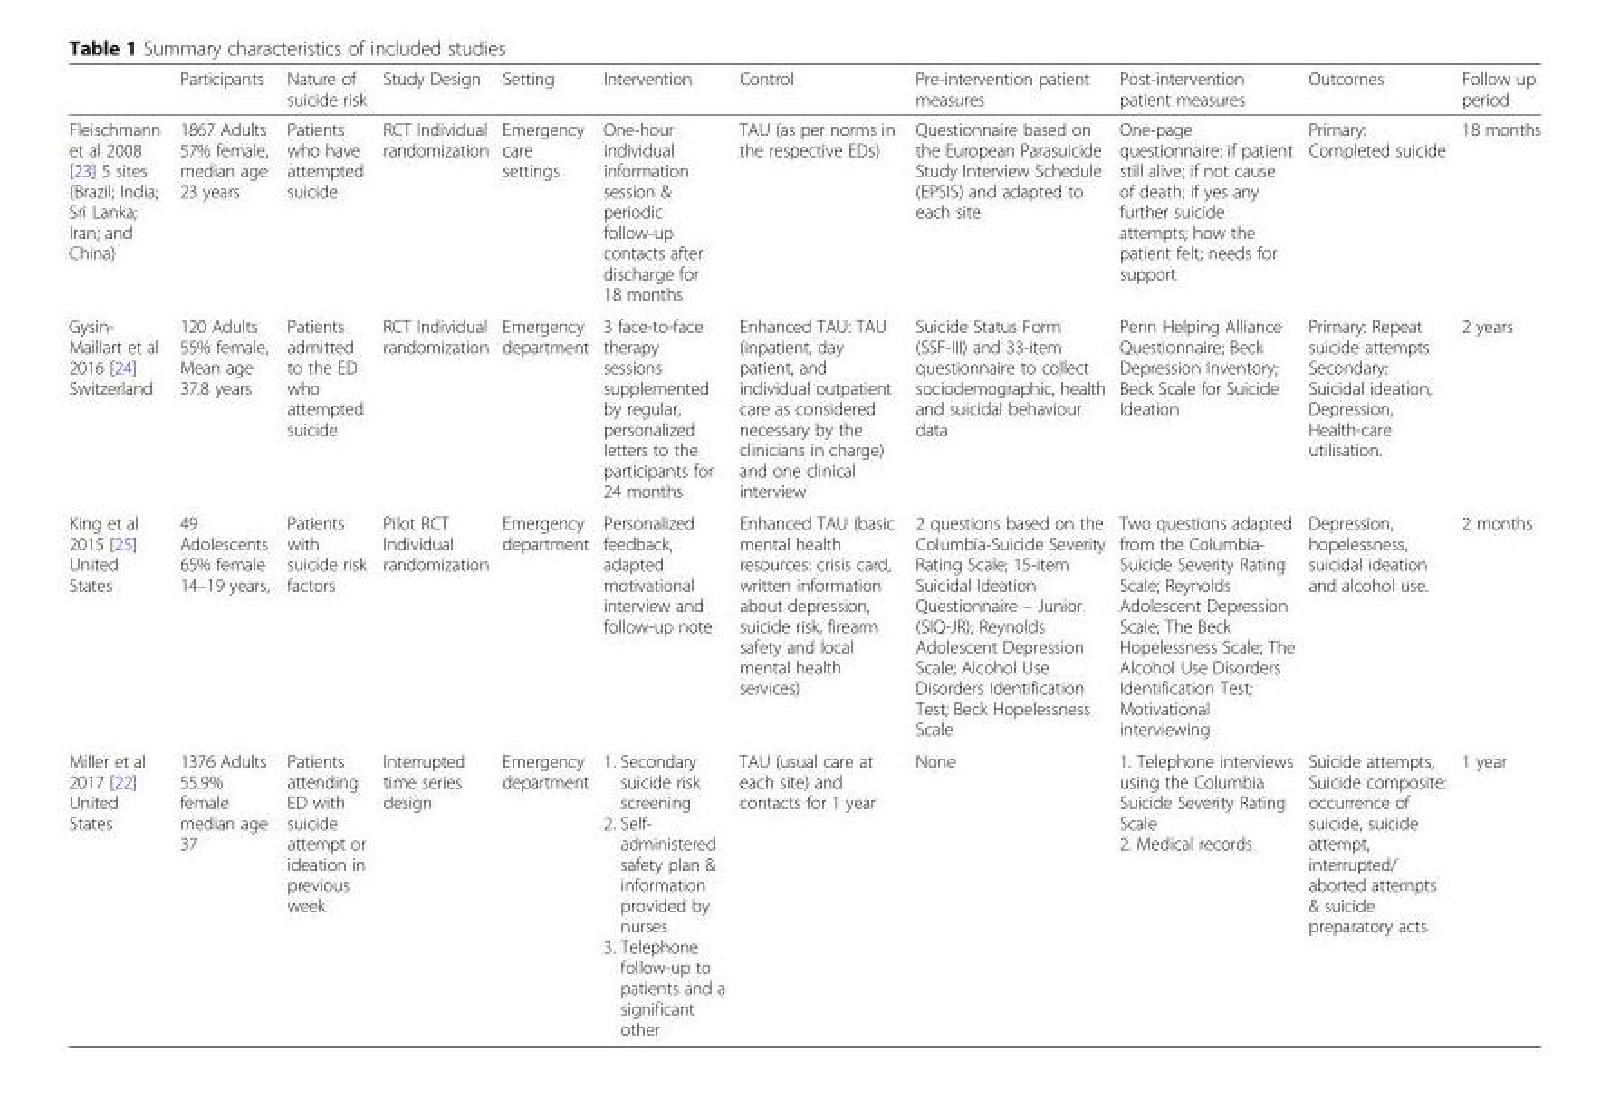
<table><thead><tr><td></td><td>Participants</td><td>Nature of suicide risk</td><td>Study Design</td><td>Setting</td><td>Intervention</td><td>Control</td><td>Pre-intervention patient measures</td><td>Post-intervention patient measures</td><td>Outcomes</td><td>Follow up period</td></tr></thead><tbody><tr><td>Fleischmann et al 2008 [23] 5 sites (Brazil; India; Sri Lanka; Iran; and China)</td><td>1867 Adults 57% female, median age 23 years</td><td>Patients who have attempted suicide</td><td>RCT Individual randomization</td><td>Emergency care settings</td><td>One-hour individual information session &amp; periodic follow-up contacts after discharge for 18 months</td><td>TAU (as per norms in the respective EDs)</td><td>Questionnaire based on the European Parasuicide Study Interview Schedule (EPSIS) and adapted to each site</td><td>One-page questionnaire: if patient still alive; if not cause of death; if yes any further suicide attempts; how the patient felt; needs for support</td><td>Primary: Completed suicide</td><td>18 months</td></tr><tr><td>Gysin- Maillart et al 2016 [24] Switzerland</td><td>120 Adults 55% female, Mean age 37.8 years</td><td>Patients admitted to the ED who attempted suicide</td><td>RCT Individual randomization</td><td>Emergency department</td><td>3 face-to-face therapy sessions supplemented by regular, personalized letters to the participants for 24 months</td><td>Enhanced TAU: TAU (inpatient, day patient, and individual outpatient care as considered necessary by the clinicians in charge) and one clinical interview</td><td>Suicide Status Form (SSF-III) and 33-item questionnaire to collect sociodemographic, health and suicidal behaviour data</td><td>Penn Helping Alliance Questionnaire; Beck Depression Inventory; Beck Scale for Suicide Ideation</td><td>Primary: Repeat suicide attempts Secondary: Suicidal ideation, Depression, Health-care utilisation.</td><td>2 years</td></tr><tr><td>King et al 2015 [25] United States</td><td>49 Adolescents 65% female 14–19 years,</td><td>Patients with suicide risk factors</td><td>Pilot RCT Individual randomization</td><td>Emergency department</td><td>Personalized feedback, adapted motivational interview and follow-up note</td><td>Enhanced TAU (basic mental health resources: crisis card, written information about depression, suicide risk, firearm safety and local mental health services)</td><td>2 questions based on the Columbia-Suicide Severity Rating Scale; 15-item Suicidal Ideation Questionnaire – Junior (SIQ-JR); Reynolds Adolescent Depression Scale; Alcohol Use Disorders Identification Test; Beck Hopelessness Scale</td><td>Two questions adapted from the Columbia- Suicide Severity Rating Scale; Reynolds Adolescent Depression Scale; The Beck Hopelessness Scale; The Alcohol Use Disorders Identification Test; Motivational interviewing</td><td>Depression, hopelessness, suicidal ideation and alcohol use.</td><td>2 months</td></tr><tr><td>Miller et al 2017 [22] United States</td><td>1376 Adults 55.9% female median age 37</td><td>Patients attending ED with suicide attempt or ideation in previous week</td><td>Interrupted time series design</td><td>Emergency department</td><td>1. Secondary suicide risk screening 2. Self- administered safety plan &amp; information provided by nurses 3. Telephone follow-up to patients and a significant other</td><td>TAU (usual care at each site) and contacts for 1 year</td><td>None</td><td>1. Telephone interviews using the Columbia Suicide Severity Rating Scale 2. Medical records</td><td>Suicide attempts, Suicide composite: occurrence of suicide, suicide attempt, interrupted/ aborted attempts &amp; suicide preparatory acts</td><td>1 year</td></tr></tbody></table>